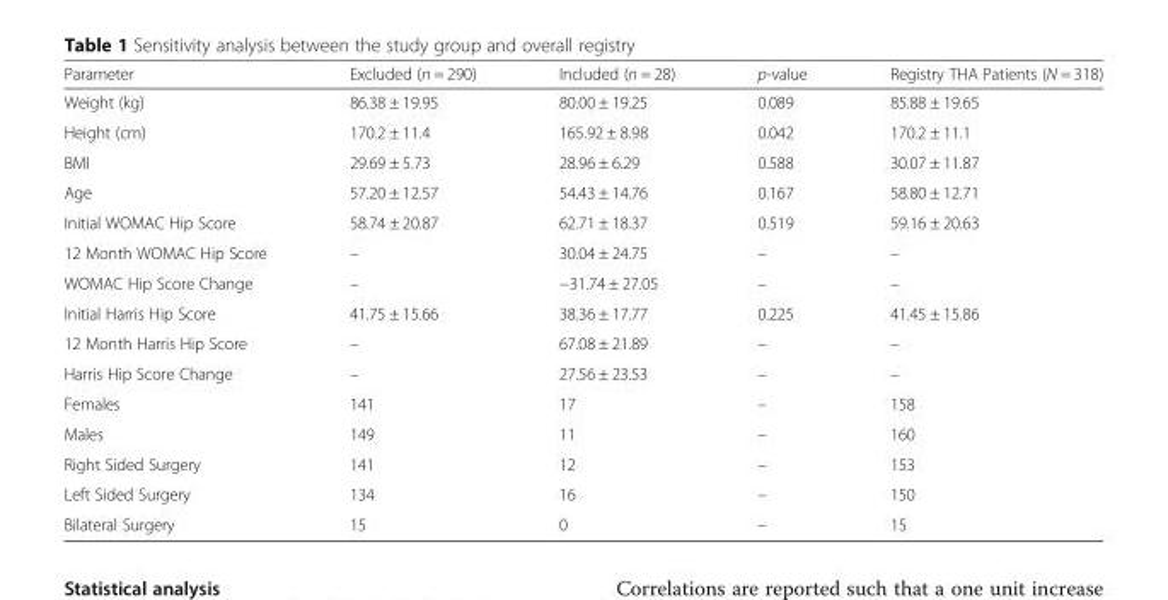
<table><thead><tr><td>Parameter</td><td>Excluded (n = 290)</td><td>Included (n = 28)</td><td>p-value</td><td>Registry THA Patients (N = 318)</td></tr></thead><tbody><tr><td>Weight (kg)</td><td>86.38 ± 19.95</td><td>80.00 ± 19.25</td><td>0.089</td><td>85.88 ± 19.65</td></tr><tr><td>Height (cm)</td><td>170.2 ± 11.4</td><td>165.92 ± 8.98</td><td>0.042</td><td>170.2 ± 11.1</td></tr><tr><td>BMI</td><td>29.69 ± 5.73</td><td>28.96 ± 6.29</td><td>0.588</td><td>30.07 ± 11.87</td></tr><tr><td>Age</td><td>57.20 ± 12.57</td><td>54.43 ± 14.76</td><td>0.167</td><td>58.80 ± 12.71</td></tr><tr><td>Initial WOMAC Hip Score</td><td>58.74 ± 20.87</td><td>62.71 ± 18.37</td><td>0.519</td><td>59.16 ± 20.63</td></tr><tr><td>12 Month WOMAC Hip Score</td><td>–</td><td>30.04 ± 24.75</td><td>–</td><td>–</td></tr><tr><td>WOMAC Hip Score Change</td><td>–</td><td>−31.74 ± 27.05</td><td>–</td><td>–</td></tr><tr><td>Initial Harris Hip Score</td><td>41.75 ± 15.66</td><td>38.36 ± 17.77</td><td>0.225</td><td>41.45 ± 15.86</td></tr><tr><td>12 Month Harris Hip Score</td><td>–</td><td>67.08 ± 21.89</td><td>–</td><td>–</td></tr><tr><td>Harris Hip Score Change</td><td>–</td><td>27.56 ± 23.53</td><td>–</td><td>–</td></tr><tr><td>Females</td><td>141</td><td>17</td><td>–</td><td>158</td></tr><tr><td>Males</td><td>149</td><td>11</td><td>–</td><td>160</td></tr><tr><td>Right Sided Surgery</td><td>141</td><td>12</td><td>–</td><td>153</td></tr><tr><td>Left Sided Surgery</td><td>134</td><td>16</td><td>–</td><td>150</td></tr><tr><td>Bilateral Surgery</td><td>15</td><td>0</td><td>–</td><td>15</td></tr></tbody></table>